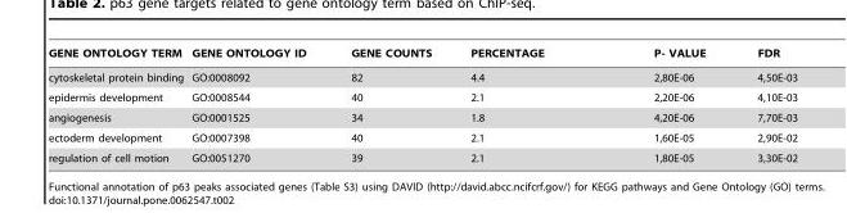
<table><thead><tr><td>GENE ONTOLOGY TERM</td><td>GENE ONTOLOGY ID</td><td>GENE COUNTS</td><td>PERCENTAGE</td><td>P- VALUE</td><td>FDR</td></tr></thead><tbody><tr><td>cytoskeletal protein binding</td><td>GO:0008092</td><td>82</td><td>4.4</td><td>2,80E-06</td><td>4,50E-03</td></tr><tr><td>epidermis development</td><td>GO:0008544</td><td>40</td><td>2.1</td><td>2,20E-06</td><td>4,10E-03</td></tr><tr><td>angiogenesis</td><td>GO:0001525</td><td>34</td><td>1.8</td><td>4,20E-06</td><td>7,70E-03</td></tr><tr><td>ectoderm development</td><td>GO:0007398</td><td>40</td><td>2.1</td><td>1,60E-05</td><td>2,90E-02</td></tr><tr><td>regulation of cell motion</td><td>GO:0051270</td><td>39</td><td>2.1</td><td>1,80E-05</td><td>3,30E-02</td></tr></tbody></table>